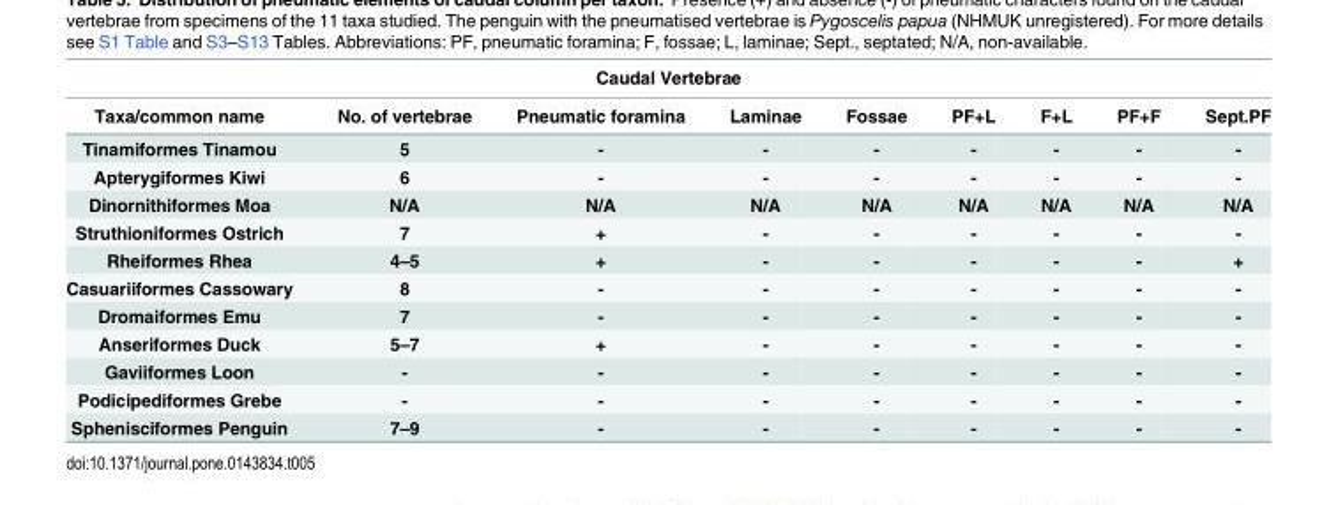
<table><thead><tr><td colspan="9">Caudal Vertebrae</td></tr><tr><td>Taxa/common name</td><td>No. of vertebrae</td><td>Pneumatic foramina</td><td>Laminae</td><td>Fossae</td><td>PF+L</td><td>F+L</td><td>PF+F</td><td>Sept.PF</td></tr></thead><tbody><tr><td>Tinamiformes Tinamou</td><td>5</td><td>-</td><td>-</td><td>-</td><td>-</td><td>-</td><td>-</td><td>-</td></tr><tr><td>Apterygiformes Kiwi</td><td>6</td><td>-</td><td>-</td><td>-</td><td>-</td><td>-</td><td>-</td><td>-</td></tr><tr><td>Dinornithiformes Moa</td><td>N/A</td><td>N/A</td><td>N/A</td><td>N/A</td><td>N/A</td><td>N/A</td><td>N/A</td><td>N/A</td></tr><tr><td>Struthioniformes Ostrich</td><td>7</td><td>+</td><td>-</td><td>-</td><td>-</td><td>-</td><td>-</td><td>-</td></tr><tr><td>Rheiformes Rhea</td><td>4–5</td><td>+</td><td>-</td><td>-</td><td>-</td><td>-</td><td>-</td><td>+</td></tr><tr><td>Casuariiformes Cassowary</td><td>8</td><td>-</td><td>-</td><td>-</td><td>-</td><td>-</td><td>-</td><td>-</td></tr><tr><td>Dromaiformes Emu</td><td>7</td><td>-</td><td>-</td><td>-</td><td>-</td><td>-</td><td>-</td><td>-</td></tr><tr><td>Anseriformes Duck</td><td>5–7</td><td>+</td><td>-</td><td>-</td><td>-</td><td>-</td><td>-</td><td>-</td></tr><tr><td>Gaviiformes Loon</td><td>-</td><td>-</td><td>-</td><td>-</td><td>-</td><td>-</td><td>-</td><td>-</td></tr><tr><td>Podicipediformes Grebe</td><td>-</td><td>-</td><td>-</td><td>-</td><td>-</td><td>-</td><td>-</td><td>-</td></tr><tr><td>Sphenisciformes Penguin</td><td>7–9</td><td>-</td><td>-</td><td>-</td><td>-</td><td>-</td><td>-</td><td>-</td></tr></tbody></table>